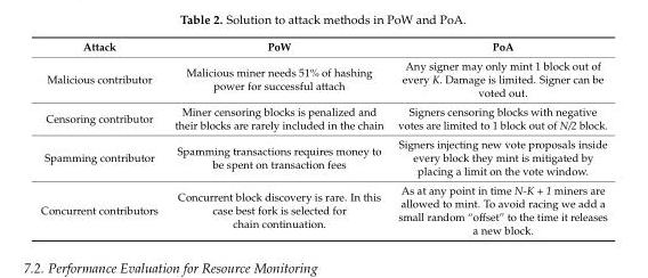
<table><thead><tr><td>Attack</td><td>PoW</td><td>PoA</td></tr></thead><tbody><tr><td>Malicious contributor</td><td>Malicious miner needs 51% of hashing power for successful attach</td><td>Any signer may only mint 1 block out of every K. Damage is limited. Signer can be voted out.</td></tr><tr><td>Censoring contributor</td><td>Miner censoring blocks is penalized and their blocks are rarely included in the chain</td><td>Signers censoring blocks with negative votes are limited to 1 block out of N/2 block.</td></tr><tr><td>Spamming contributor</td><td>Spamming transactions requires money to be spent on transaction fees</td><td>Signers injecting new vote proposals inside every block they mint is mitigated by placing a limit on the vote window.</td></tr><tr><td>Concurrent contributors</td><td>Concurrent block discovery is rare. In this case best fork is selected for chain continuation.</td><td>As at any point in time N-K + 1 miners are allowed to mint. To avoid racing we add a small random “offset” to the time it releases a new block.</td></tr></tbody></table>